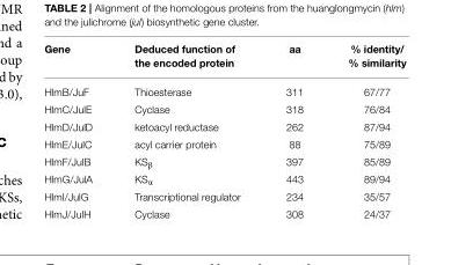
<table><thead><tr><td>Gene</td><td>Deduced function of the encoded protein</td><td>aa</td><td>% identity/ % similarity</td></tr></thead><tbody><tr><td>HlmB/JuF</td><td>Thioesterase</td><td>311</td><td>67/77</td></tr><tr><td>HlmC/JulE</td><td>Cyclase</td><td>318</td><td>76/84</td></tr><tr><td>HlmD/JulD</td><td>ketoacyl reductase</td><td>262</td><td>87/94</td></tr><tr><td>HlmE/JulC</td><td>acyl carrier protein</td><td>88</td><td>75/89</td></tr><tr><td>HlmF/JulB</td><td>KS<sub>β</sub></td><td>397</td><td>85/89</td></tr><tr><td>HlmG/JulA</td><td>KS<sub>α</sub></td><td>443</td><td>89/94</td></tr><tr><td>HlmI/JulG</td><td>Transcriptional regulator</td><td>234</td><td>35/57</td></tr><tr><td>HlmJ/JulH</td><td>Cyclase</td><td>308</td><td>24/37</td></tr></tbody></table>